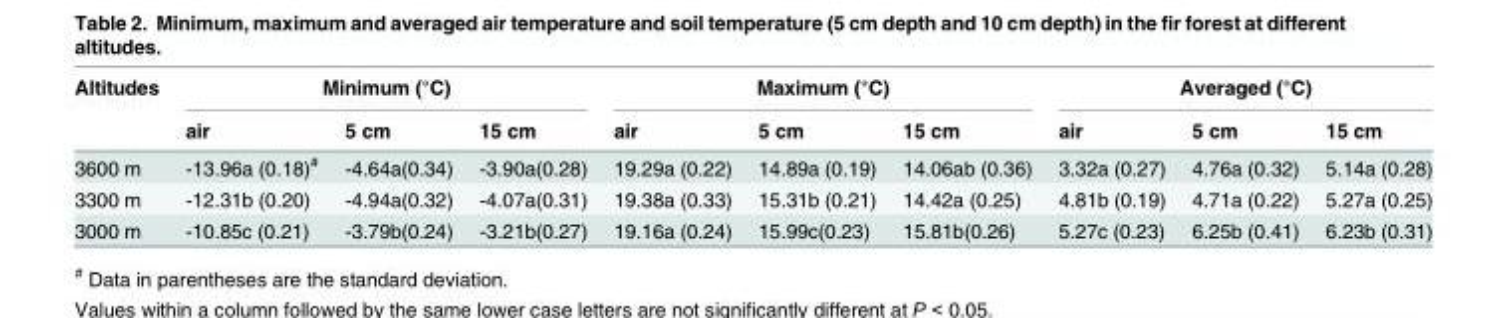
<table><thead><tr><td rowspan="2">Altitudes</td><td colspan="3">Minimum (°C)</td><td colspan="3">Maximum (°C)</td><td colspan="3">Averaged (°C)</td></tr><tr><td>air</td><td>5 cm</td><td>15 cm</td><td>air</td><td>5 cm</td><td>15 cm</td><td>air</td><td>5 cm</td><td>15 cm</td></tr></thead><tbody><tr><td>3600 m</td><td>-13.96a (0.18)<sup>#</sup></td><td>-4.64a(0.34)</td><td>-3.90a(0.28)</td><td>19.29a (0.22)</td><td>14.89a (0.19)</td><td>14.06ab (0.36)</td><td>3.32a (0.27)</td><td>4.76a (0.32)</td><td>5.14a (0.28)</td></tr><tr><td>3300 m</td><td>-12.31b (0.20)</td><td>-4.94a(0.32)</td><td>-4.07a(0.31)</td><td>19.38a (0.33)</td><td>15.31b (0.21)</td><td>14.42a (0.25)</td><td>4.81b (0.19)</td><td>4.71a (0.22)</td><td>5.27a (0.25)</td></tr><tr><td>3000 m</td><td>-10.85c (0.21)</td><td>-3.79b(0.24)</td><td>-3.21b(0.27)</td><td>19.16a (0.24)</td><td>15.99c(0.23)</td><td>15.81b(0.26)</td><td>5.27c (0.23)</td><td>6.25b (0.41)</td><td>6.23b (0.31)</td></tr></tbody></table>